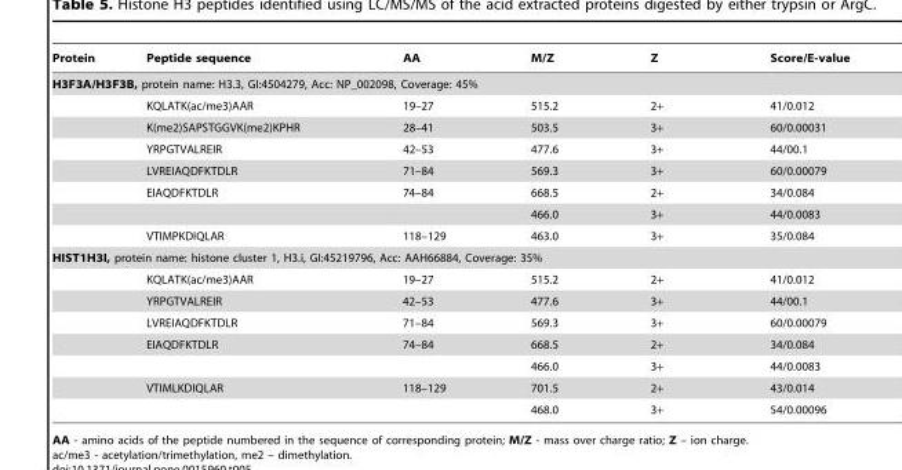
<table><thead><tr><td>Protein</td><td>Peptide sequence</td><td>AA</td><td>M/Z</td><td>Z</td><td>Score/E-value</td></tr></thead><tbody><tr><td colspan="6">H3F3A/H3F3B, protein name: H3.3, GI:4504279, Acc: NP_002098, Coverage: 45%</td></tr><tr><td></td><td>KQLATK(ac/me3)AAR</td><td>19–27</td><td>515.2</td><td>2+</td><td>41/0.012</td></tr><tr><td></td><td>K(me2)SAPSTGGVK(me2)KPHR</td><td>28–41</td><td>503.5</td><td>3+</td><td>60/0.00031</td></tr><tr><td></td><td>YRPGTVALREIR</td><td>42–53</td><td>477.6</td><td>3+</td><td>44/00.1</td></tr><tr><td></td><td>LVREIAQDFKTDLR</td><td>71–84</td><td>569.3</td><td>3+</td><td>60/0.00079</td></tr><tr><td></td><td>EIAQDFKTDLR</td><td>74–84</td><td>668.5</td><td>2+</td><td>34/0.084</td></tr><tr><td></td><td></td><td></td><td>466.0</td><td>3+</td><td>44/0.0083</td></tr><tr><td></td><td>VTIMPKDIQLAR</td><td>118–129</td><td>463.0</td><td>3+</td><td>35/0.084</td></tr><tr><td colspan="6">HIST1H3I, protein name: histone cluster 1, H3.i, GI:45219796, Acc: AAH66884, Coverage: 35%</td></tr><tr><td></td><td>KQLATK(ac/me3)AAR</td><td>19–27</td><td>515.2</td><td>2+</td><td>41/0.012</td></tr><tr><td></td><td>YRPGTVALREIR</td><td>42–53</td><td>477.6</td><td>3+</td><td>44/00.1</td></tr><tr><td></td><td>LVREIAQDFKTDLR</td><td>71–84</td><td>569.3</td><td>3+</td><td>60/0.00079</td></tr><tr><td></td><td>EIAQDFKTDLR</td><td>74–84</td><td>668.5</td><td>2+</td><td>34/0.084</td></tr><tr><td></td><td></td><td></td><td>466.0</td><td>3+</td><td>44/0.0083</td></tr><tr><td></td><td>VTIMLKDIQLAR</td><td>118–129</td><td>701.5</td><td>2+</td><td>43/0.014</td></tr><tr><td></td><td></td><td></td><td>468.0</td><td>3+</td><td>54/0.00096</td></tr></tbody></table>